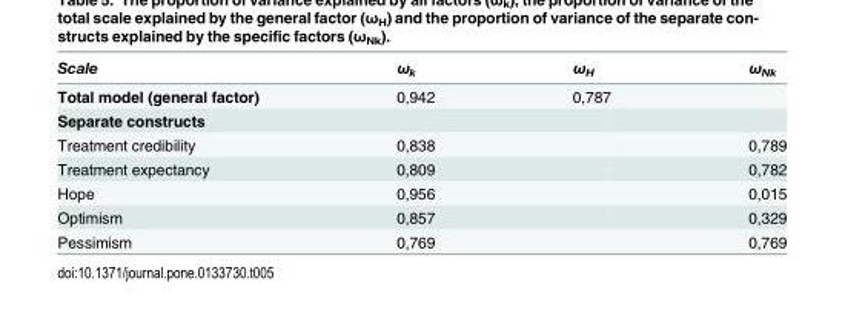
<table><thead><tr><td>Scale</td><td>ω<sub>k</sub></td><td>ω<sub>H</sub></td><td>ω<sub>Nk</sub></td></tr></thead><tbody><tr><td>Total model (general factor)</td><td>0,942</td><td>0,787</td><td></td></tr><tr><td colspan="4">Separate constructs</td></tr><tr><td>Treatment credibility</td><td>0,838</td><td></td><td>0,789</td></tr><tr><td>Treatment expectancy</td><td>0,809</td><td></td><td>0,782</td></tr><tr><td>Hope</td><td>0,956</td><td></td><td>0,015</td></tr><tr><td>Optimism</td><td>0,857</td><td></td><td>0,329</td></tr><tr><td>Pessimism</td><td>0,769</td><td></td><td>0,769</td></tr></tbody></table>